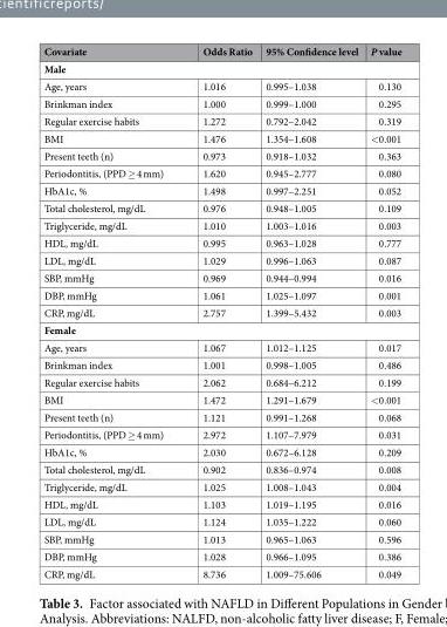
<table><thead><tr><td>Covariate</td><td>Odds Ratio</td><td>95% Confidence level</td><td>P value</td></tr></thead><tbody><tr><td colspan="4">Male</td></tr><tr><td>Age, years</td><td>1.016</td><td>0.995–1.038</td><td>0.130</td></tr><tr><td>Brinkman index</td><td>1.000</td><td>0.999–1.000</td><td>0.295</td></tr><tr><td>Regular exercise habits</td><td>1.272</td><td>0.792–2.042</td><td>0.319</td></tr><tr><td>BMI</td><td>1.476</td><td>1.354–1.608</td><td>&lt;0.001</td></tr><tr><td>Present teeth (n)</td><td>0.973</td><td>0.918–1.032</td><td>0.363</td></tr><tr><td>Periodontitis, (PPD ≥ 4 mm)</td><td>1.620</td><td>0.945–2.777</td><td>0.080</td></tr><tr><td>HbA1c, %</td><td>1.498</td><td>0.997–2.251</td><td>0.052</td></tr><tr><td>Total cholesterol, mg/dL</td><td>0.976</td><td>0.948–1.005</td><td>0.109</td></tr><tr><td>Triglyceride, mg/dL</td><td>1.010</td><td>1.003–1.016</td><td>0.003</td></tr><tr><td>HDL, mg/dL</td><td>0.995</td><td>0.963–1.028</td><td>0.777</td></tr><tr><td>LDL, mg/dL</td><td>1.029</td><td>0.996–1.063</td><td>0.087</td></tr><tr><td>SBP, mmHg</td><td>0.969</td><td>0.944–0.994</td><td>0.016</td></tr><tr><td>DBP, mmHg</td><td>1.061</td><td>1.025–1.097</td><td>0.001</td></tr><tr><td>CRP, mg/dL</td><td>2.757</td><td>1.399–5.432</td><td>0.003</td></tr><tr><td colspan="4">Female</td></tr><tr><td>Age, years</td><td>1.067</td><td>1.012–1.125</td><td>0.017</td></tr><tr><td>Brinkman index</td><td>1.001</td><td>0.998–1.005</td><td>0.486</td></tr><tr><td>Regular exercise habits</td><td>2.062</td><td>0.684–6.212</td><td>0.199</td></tr><tr><td>BMI</td><td>1.472</td><td>1.291–1.679</td><td>&lt;0.001</td></tr><tr><td>Present teeth (n)</td><td>1.121</td><td>0.991–1.268</td><td>0.068</td></tr><tr><td>Periodontitis, (PPD ≥ 4 mm)</td><td>2.972</td><td>1.107–7.979</td><td>0.031</td></tr><tr><td>HbA1c, %</td><td>2.030</td><td>0.672–6.128</td><td>0.209</td></tr><tr><td>Total cholesterol, mg/dL</td><td>0.902</td><td>0.836–0.974</td><td>0.008</td></tr><tr><td>Triglyceride, mg/dL</td><td>1.025</td><td>1.008–1.043</td><td>0.004</td></tr><tr><td>HDL, mg/dL</td><td>1.103</td><td>1.019–1.195</td><td>0.016</td></tr><tr><td>LDL, mg/dL</td><td>1.124</td><td>1.035–1.222</td><td>0.060</td></tr><tr><td>SBP, mmHg</td><td>1.013</td><td>0.965–1.063</td><td>0.596</td></tr><tr><td>DBP, mmHg</td><td>1.028</td><td>0.966–1.095</td><td>0.386</td></tr><tr><td>CRP, mg/dL</td><td>8.736</td><td>1.009–75.606</td><td>0.049</td></tr></tbody></table>